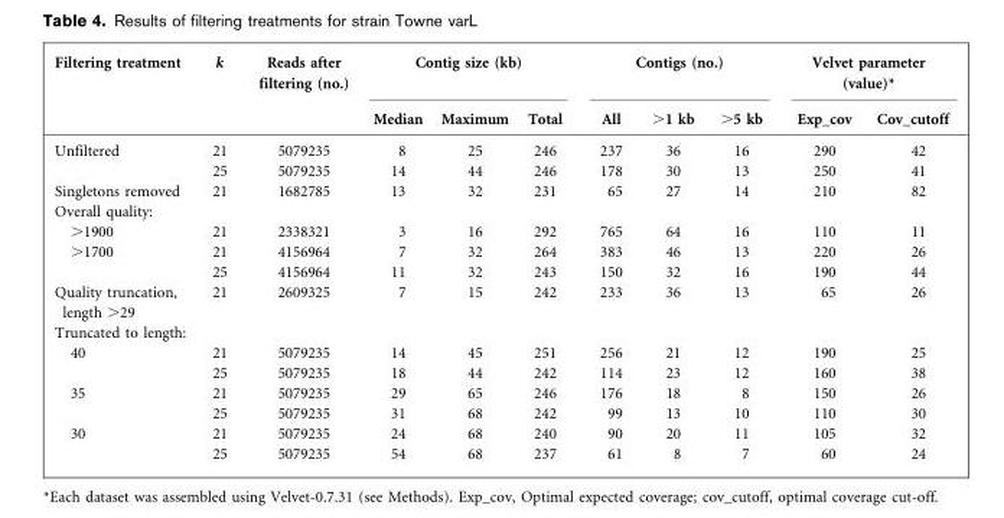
<table><thead><tr><td rowspan="2">Filtering treatment</td><td rowspan="2">k</td><td rowspan="2">Reads after filtering (no.)</td><td colspan="3">Contig size (kb)</td><td colspan="3">Contigs (no.)</td><td colspan="2">Velvet parameter (value)*</td></tr><tr><td>Median</td><td>Maximum</td><td>Total</td><td>All</td><td>&gt;1 kb</td><td>&gt;5 kb</td><td>Exp_cov</td><td>Cov_cutoff</td></tr></thead><tbody><tr><td rowspan="2">Unfiltered</td><td>21</td><td>5079235</td><td>8</td><td>25</td><td>246</td><td>237</td><td>36</td><td>16</td><td>290</td><td>42</td></tr><tr><td>25</td><td>5079235</td><td>14</td><td>44</td><td>246</td><td>178</td><td>30</td><td>13</td><td>250</td><td>41</td></tr><tr><td>Singletons removed</td><td>21</td><td>1682785</td><td>13</td><td>32</td><td>231</td><td>65</td><td>27</td><td>14</td><td>210</td><td>82</td></tr><tr><td colspan="11">Overall quality:</td></tr><tr><td>&gt;1900</td><td>21</td><td>2338321</td><td>3</td><td>16</td><td>292</td><td>765</td><td>64</td><td>16</td><td>110</td><td>11</td></tr><tr><td rowspan="2">&gt;1700</td><td>21</td><td>4156964</td><td>7</td><td>32</td><td>264</td><td>383</td><td>46</td><td>13</td><td>220</td><td>26</td></tr><tr><td>25</td><td>4156964</td><td>11</td><td>32</td><td>243</td><td>150</td><td>32</td><td>16</td><td>190</td><td>44</td></tr><tr><td>Quality truncation, length &gt;29</td><td>21</td><td>2609325</td><td>7</td><td>15</td><td>242</td><td>233</td><td>36</td><td>13</td><td>65</td><td>26</td></tr><tr><td colspan="11">Truncated to length:</td></tr><tr><td rowspan="2">40</td><td>21</td><td>5079235</td><td>14</td><td>45</td><td>251</td><td>256</td><td>21</td><td>12</td><td>190</td><td>25</td></tr><tr><td>25</td><td>5079235</td><td>18</td><td>44</td><td>242</td><td>114</td><td>23</td><td>12</td><td>160</td><td>38</td></tr><tr><td rowspan="2">35</td><td>21</td><td>5079235</td><td>29</td><td>65</td><td>246</td><td>176</td><td>18</td><td>8</td><td>150</td><td>26</td></tr><tr><td>25</td><td>5079235</td><td>31</td><td>68</td><td>242</td><td>99</td><td>13</td><td>10</td><td>110</td><td>30</td></tr><tr><td rowspan="2">30</td><td>21</td><td>5079235</td><td>24</td><td>68</td><td>240</td><td>90</td><td>20</td><td>11</td><td>105</td><td>32</td></tr><tr><td>25</td><td>5079235</td><td>54</td><td>68</td><td>237</td><td>61</td><td>8</td><td>7</td><td>60</td><td>24</td></tr></tbody></table>